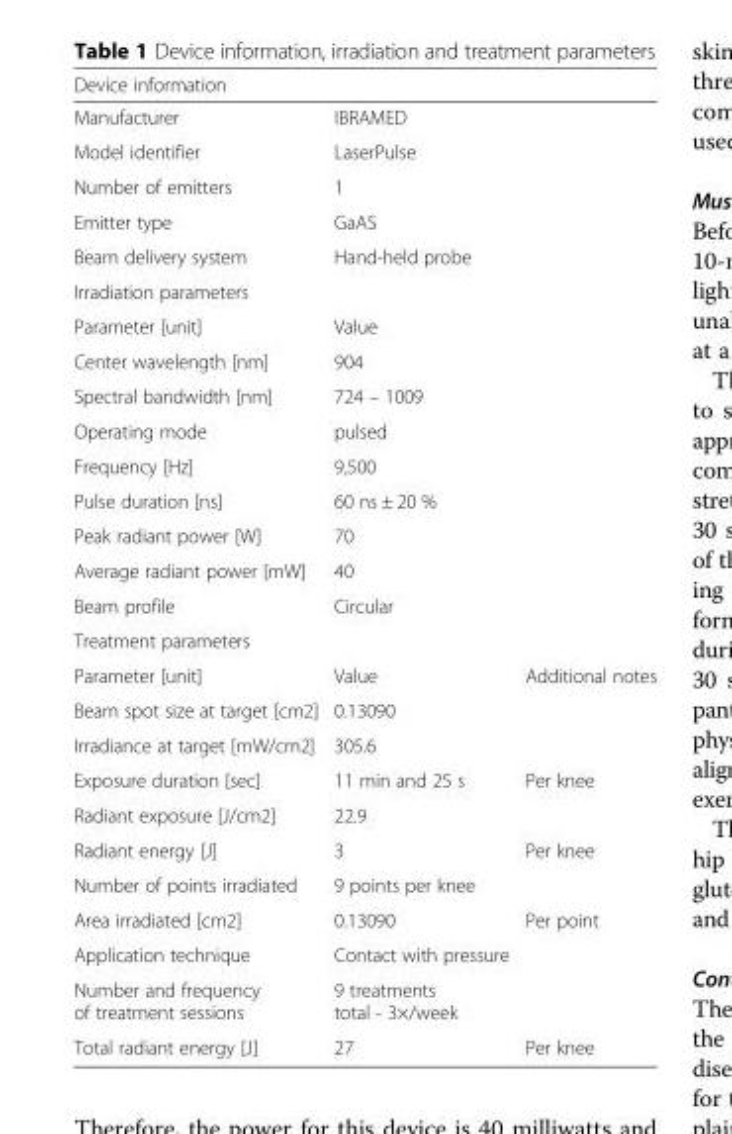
<table><thead><tr><td colspan="3">Device information</td></tr></thead><tbody><tr><td>Manufacturer</td><td colspan="2">IBRAMED</td></tr><tr><td>Model identifier</td><td colspan="2">LaserPulse</td></tr><tr><td>Number of emitters</td><td colspan="2">1</td></tr><tr><td>Emitter type</td><td colspan="2">GaAS</td></tr><tr><td>Beam delivery system</td><td colspan="2">Hand-held probe</td></tr><tr><td colspan="3">Irradiation parameters</td></tr><tr><td>Parameter [unit]</td><td colspan="2">Value</td></tr><tr><td>Center wavelength [nm]</td><td colspan="2">904</td></tr><tr><td>Spectral bandwidth [nm]</td><td colspan="2">724 – 1009</td></tr><tr><td>Operating mode</td><td colspan="2">pulsed</td></tr><tr><td>Frequency [Hz]</td><td colspan="2">9,500</td></tr><tr><td>Pulse duration [ns]</td><td colspan="2">60 ns ± 20 %</td></tr><tr><td>Peak radiant power [W]</td><td colspan="2">70</td></tr><tr><td>Average radiant power [mW]</td><td colspan="2">40</td></tr><tr><td>Beam profile</td><td colspan="2">Circular</td></tr><tr><td colspan="3">Treatment parameters</td></tr><tr><td>Parameter [unit]</td><td>Value</td><td>Additional notes</td></tr><tr><td>Beam spot size at target [cm2]</td><td>0.13090</td><td></td></tr><tr><td>Irradiance at target [mW/cm2]</td><td>305.6</td><td></td></tr><tr><td>Exposure duration [sec]</td><td>11 min and 25 s</td><td>Per knee</td></tr><tr><td>Radiant exposure [J/cm2]</td><td>22.9</td><td></td></tr><tr><td>Radiant energy [J]</td><td>3</td><td>Per knee</td></tr><tr><td>Number of points irradiated</td><td>9 points per knee</td><td></td></tr><tr><td>Area irradiated [cm2]</td><td>0.13090</td><td>Per point</td></tr><tr><td>Application technique</td><td>Contact with pressure</td><td></td></tr><tr><td>Number and frequency of treatment sessions</td><td>9 treatments total - 3×/week</td><td></td></tr><tr><td>Total radiant energy [J]</td><td>27</td><td>Per knee</td></tr></tbody></table>